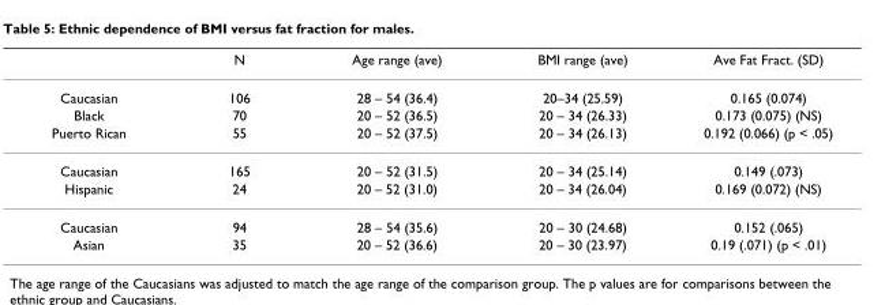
<table><thead><tr><td></td><td>N</td><td>Age range (ave)</td><td>BMI range (ave)</td><td>Ave Fat Fract. (SD)</td></tr></thead><tbody><tr><td>Caucasian</td><td>106</td><td>28 – 54 (36.4)</td><td>20–34 (25.59)</td><td>0.165 (0.074)</td></tr><tr><td>Black</td><td>70</td><td>20 – 52 (36.5)</td><td>20 – 34 (26.33)</td><td>0.173 (0.075) (NS)</td></tr><tr><td>Puerto Rican</td><td>55</td><td>20 – 52 (37.5)</td><td>20 – 34 (26.13)</td><td>0.192 (0.066) (p &lt; .05)</td></tr><tr><td>Caucasian</td><td>165</td><td>20 – 52 (31.5)</td><td>20 – 34 (25.14)</td><td>0.149 (.073)</td></tr><tr><td>Hispanic</td><td>24</td><td>20 – 52 (31.0)</td><td>20 – 34 (26.04)</td><td>0.169 (0.072) (NS)</td></tr><tr><td>Caucasian</td><td>94</td><td>28 – 54 (35.6)</td><td>20 – 30 (24.68)</td><td>0.152 (.065)</td></tr><tr><td>Asian</td><td>35</td><td>20 – 52 (36.6)</td><td>20 – 30 (23.97)</td><td>0.19 (.071) (p &lt; .01)</td></tr></tbody></table>